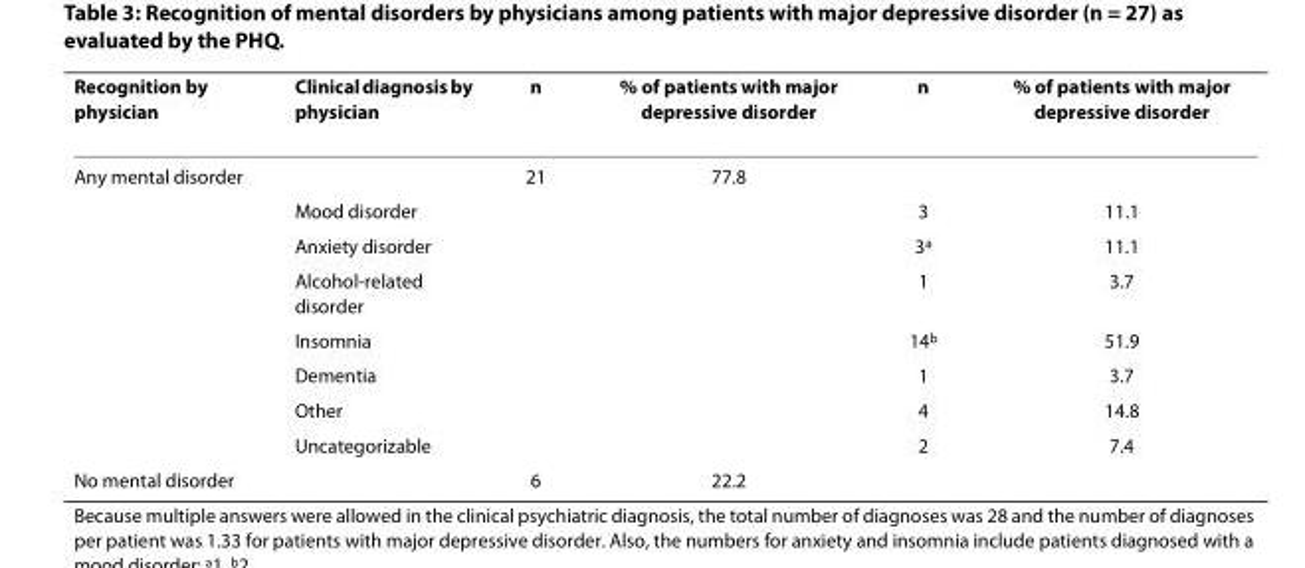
<table><thead><tr><td>Recognition by physician</td><td>Clinical diagnosis by physician</td><td>n</td><td>% of patients with major depressive disorder</td><td>n</td><td>% of patients with major depressive disorder</td></tr></thead><tbody><tr><td rowspan="8">Any mental disorder</td><td></td><td>21</td><td>77.8</td><td></td><td></td></tr><tr><td>Mood disorder</td><td></td><td></td><td>3</td><td>11.1</td></tr><tr><td>Anxiety disorder</td><td></td><td></td><td>3<sup>a</sup></td><td>11.1</td></tr><tr><td>Alcohol-related disorder</td><td></td><td></td><td>1</td><td>3.7</td></tr><tr><td>Insomnia</td><td></td><td></td><td>14<sup>b</sup></td><td>51.9</td></tr><tr><td>Dementia</td><td></td><td></td><td>1</td><td>3.7</td></tr><tr><td>Other</td><td></td><td></td><td>4</td><td>14.8</td></tr><tr><td>Uncategorizable</td><td></td><td></td><td>2</td><td>7.4</td></tr><tr><td>No mental disorder</td><td></td><td>6</td><td>22.2</td><td></td><td></td></tr></tbody></table>